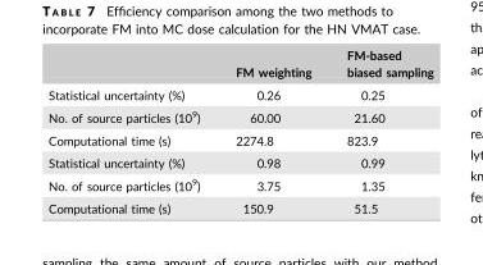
<table><thead><tr><td></td><td>FM weighting</td><td>FM-based biased sampling</td></tr></thead><tbody><tr><td>Statistical uncertainty (%)</td><td>0.26</td><td>0.25</td></tr><tr><td>No. of source particles (10<sup>9</sup>)</td><td>60.00</td><td>21.60</td></tr><tr><td>Computational time (s)</td><td>2274.8</td><td>823.9</td></tr><tr><td>Statistical uncertainty (%)</td><td>0.98</td><td>0.99</td></tr><tr><td>No. of source particles (10<sup>9</sup>)</td><td>3.75</td><td>1.35</td></tr><tr><td>Computational time (s)</td><td>150.9</td><td>51.5</td></tr></tbody></table>